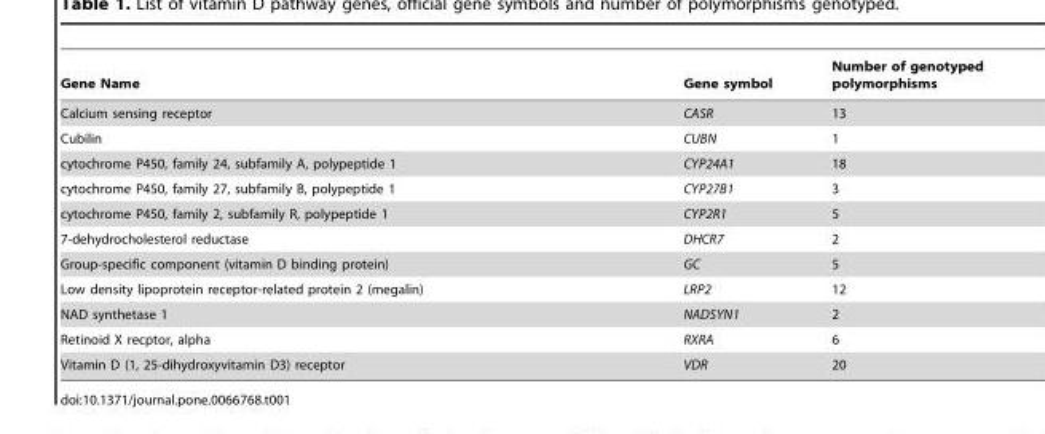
<table><thead><tr><td>Gene Name</td><td>Gene symbol</td><td>Number of genotyped polymorphisms</td></tr></thead><tbody><tr><td>Calcium sensing receptor</td><td>CASR</td><td>13</td></tr><tr><td>Cubilin</td><td>CUBN</td><td>1</td></tr><tr><td>cytochrome P450, family 24, subfamily A, polypeptide 1</td><td>CYP24A1</td><td>18</td></tr><tr><td>cytochrome P450, family 27, subfamily B, polypeptide 1</td><td>CYP27B1</td><td>3</td></tr><tr><td>cytochrome P450, family 2, subfamily R, polypeptide 1</td><td>CYP2R1</td><td>5</td></tr><tr><td>7-dehydrocholesterol reductase</td><td>DHCR7</td><td>2</td></tr><tr><td>Group-specific component (vitamin D binding protein)</td><td>GC</td><td>5</td></tr><tr><td>Low density lipoprotein receptor-related protein 2 (megalin)</td><td>LRP2</td><td>12</td></tr><tr><td>NAD synthetase 1</td><td>NADSYN1</td><td>2</td></tr><tr><td>Retinoid X recptor, alpha</td><td>RXRA</td><td>6</td></tr><tr><td>Vitamin D (1, 25-dihydroxyvitamin D3) receptor</td><td>VDR</td><td>20</td></tr></tbody></table>